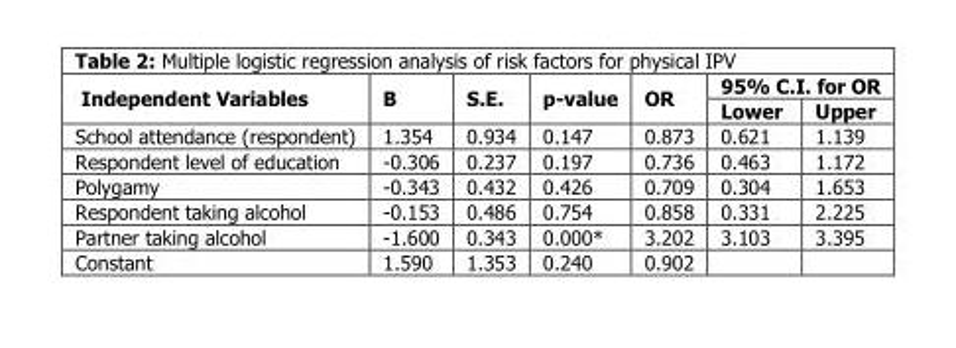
<table><thead><tr><td rowspan="2">Independent Variables</td><td rowspan="2">B</td><td rowspan="2">S.E.</td><td rowspan="2">p-value</td><td rowspan="2">OR</td><td colspan="2">95% C.I. for OR</td></tr><tr><td>Lower</td><td>Upper</td></tr></thead><tbody><tr><td>School attendance (respondent)</td><td>1.354</td><td>0.934</td><td>0.147</td><td>0.873</td><td>0.621</td><td>1.139</td></tr><tr><td>Respondent level of education</td><td>-0.306</td><td>0.237</td><td>0.197</td><td>0.736</td><td>0.463</td><td>1.172</td></tr><tr><td>Polygamy</td><td>-0.343</td><td>0.432</td><td>0.426</td><td>0.709</td><td>0.304</td><td>1.653</td></tr><tr><td>Respondent taking alcohol</td><td>-0.153</td><td>0.486</td><td>0.754</td><td>0.858</td><td>0.331</td><td>2.225</td></tr><tr><td>Partner taking alcohol</td><td>-1.600</td><td>0.343</td><td>0.000*</td><td>3.202</td><td>3.103</td><td>3.395</td></tr><tr><td>Constant</td><td>1.590</td><td>1.353</td><td>0.240</td><td>0.902</td><td></td><td></td></tr></tbody></table>